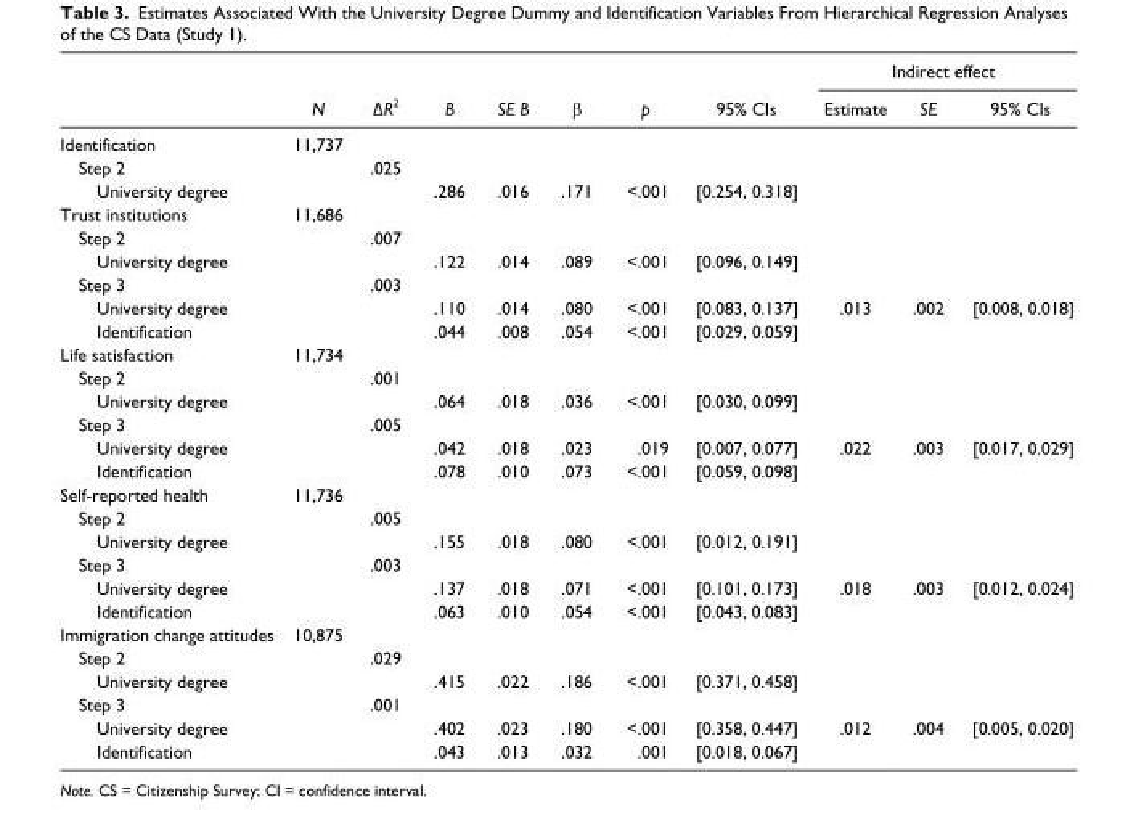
<table><thead><tr><td rowspan="2"></td><td rowspan="2">N</td><td rowspan="2">ΔR<sup>2</sup></td><td rowspan="2">B</td><td rowspan="2">SE B</td><td rowspan="2">β</td><td rowspan="2">p</td><td rowspan="2">95% CIs</td><td colspan="3">Indirect effect</td></tr><tr><td>Estimate</td><td>SE</td><td>95% CIs</td></tr></thead><tbody><tr><td>Identification</td><td>11,737</td><td></td><td></td><td></td><td></td><td></td><td></td><td></td><td></td><td></td></tr><tr><td>Step 2</td><td></td><td>.025</td><td></td><td></td><td></td><td></td><td></td><td></td><td></td><td></td></tr><tr><td>University degree</td><td></td><td></td><td>.286</td><td>.016</td><td>.171</td><td>&lt;.001</td><td>[0.254, 0.318]</td><td></td><td></td><td></td></tr><tr><td>Trust institutions</td><td>11,686</td><td></td><td></td><td></td><td></td><td></td><td></td><td></td><td></td><td></td></tr><tr><td>Step 2</td><td></td><td>.007</td><td></td><td></td><td></td><td></td><td></td><td></td><td></td><td></td></tr><tr><td>University degree</td><td></td><td></td><td>.122</td><td>.014</td><td>.089</td><td>&lt;.001</td><td>[0.096, 0.149]</td><td></td><td></td><td></td></tr><tr><td>Step 3</td><td></td><td>.003</td><td></td><td></td><td></td><td></td><td></td><td></td><td></td><td></td></tr><tr><td>University degree</td><td></td><td></td><td>.110</td><td>.014</td><td>.080</td><td>&lt;.001</td><td>[0.083, 0.137]</td><td>.013</td><td>.002</td><td>[0.008, 0.018]</td></tr><tr><td>Identification</td><td></td><td></td><td>.044</td><td>.008</td><td>.054</td><td>&lt;.001</td><td>[0.029, 0.059]</td><td></td><td></td><td></td></tr><tr><td>Life satisfaction</td><td>11,734</td><td></td><td></td><td></td><td></td><td></td><td></td><td></td><td></td><td></td></tr><tr><td>Step 2</td><td></td><td>.001</td><td></td><td></td><td></td><td></td><td></td><td></td><td></td><td></td></tr><tr><td>University degree</td><td></td><td></td><td>.064</td><td>.018</td><td>.036</td><td>&lt;.001</td><td>[0.030, 0.099]</td><td></td><td></td><td></td></tr><tr><td>Step 3</td><td></td><td>.005</td><td></td><td></td><td></td><td></td><td></td><td></td><td></td><td></td></tr><tr><td>University degree</td><td></td><td></td><td>.042</td><td>.018</td><td>.023</td><td>.019</td><td>[0.007, 0.077]</td><td>.022</td><td>.003</td><td>[0.017, 0.029]</td></tr><tr><td>Identification</td><td></td><td></td><td>.078</td><td>.010</td><td>.073</td><td>&lt;.001</td><td>[0.059, 0.098]</td><td></td><td></td><td></td></tr><tr><td>Self-reported health</td><td>11,736</td><td></td><td></td><td></td><td></td><td></td><td></td><td></td><td></td><td></td></tr><tr><td>Step 2</td><td></td><td>.005</td><td></td><td></td><td></td><td></td><td></td><td></td><td></td><td></td></tr><tr><td>University degree</td><td></td><td></td><td>.155</td><td>.018</td><td>.080</td><td>&lt;.001</td><td>[0.012, 0.191]</td><td></td><td></td><td></td></tr><tr><td>Step 3</td><td></td><td>.003</td><td></td><td></td><td></td><td></td><td></td><td></td><td></td><td></td></tr><tr><td>University degree</td><td></td><td></td><td>.137</td><td>.018</td><td>.071</td><td>&lt;.001</td><td>[0.101, 0.173]</td><td>.018</td><td>.003</td><td>[0.012, 0.024]</td></tr><tr><td>Identification</td><td></td><td></td><td>.063</td><td>.010</td><td>.054</td><td>&lt;.001</td><td>[0.043, 0.083]</td><td></td><td></td><td></td></tr><tr><td>Immigration change attitudes</td><td>10,875</td><td></td><td></td><td></td><td></td><td></td><td></td><td></td><td></td><td></td></tr><tr><td>Step 2</td><td></td><td>.029</td><td></td><td></td><td></td><td></td><td></td><td></td><td></td><td></td></tr><tr><td>University degree</td><td></td><td></td><td>.415</td><td>.022</td><td>.186</td><td>&lt;.001</td><td>[0.371, 0.458]</td><td></td><td></td><td></td></tr><tr><td>Step 3</td><td></td><td>.001</td><td></td><td></td><td></td><td></td><td></td><td></td><td></td><td></td></tr><tr><td>University degree</td><td></td><td></td><td>.402</td><td>.023</td><td>.180</td><td>&lt;.001</td><td>[0.358, 0.447]</td><td>.012</td><td>.004</td><td>[0.005, 0.020]</td></tr><tr><td>Identification</td><td></td><td></td><td>.043</td><td>.013</td><td>.032</td><td>.001</td><td>[0.018, 0.067]</td><td></td><td></td><td></td></tr></tbody></table>